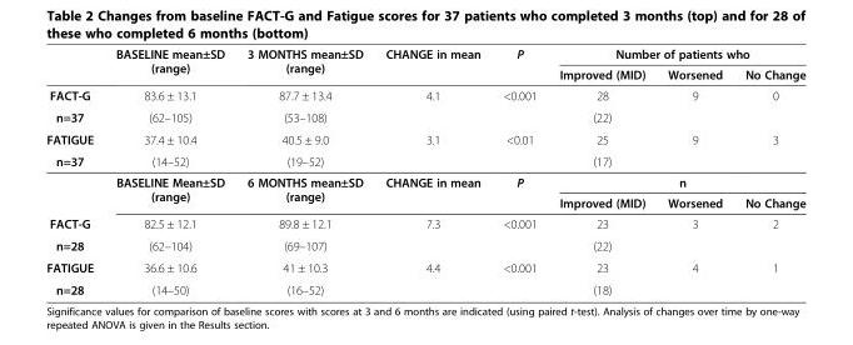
<table><thead><tr><td rowspan="2"></td><td rowspan="2">BASELINE mean±SD (range)</td><td rowspan="2">3 MONTHS mean±SD (range)</td><td rowspan="2">CHANGE in mean</td><td rowspan="2">P</td><td colspan="3">Number of patients who</td></tr><tr><td>Improved (MID)</td><td>Worsened</td><td>No Change</td></tr></thead><tbody><tr><td>FACT-G</td><td>83.6 ± 13.1</td><td>87.7 ± 13.4</td><td>4.1</td><td>&lt;0.001</td><td>28</td><td>9</td><td>0</td></tr><tr><td>n=37</td><td>(62–105)</td><td>(53–108)</td><td></td><td></td><td>(22)</td><td></td><td></td></tr><tr><td>FATIGUE</td><td>37.4 ± 10.4</td><td>40.5 ± 9.0</td><td>3.1</td><td>&lt;0.01</td><td>25</td><td>9</td><td>3</td></tr><tr><td rowspan="3">n=37</td><td>(14–52)</td><td>(19–52)</td><td></td><td></td><td>(17)</td><td></td><td></td></tr><tr><td rowspan="2">BASELINE Mean±SD (range)</td><td rowspan="2">6 MONTHS mean±SD (range)</td><td rowspan="2">CHANGE in mean</td><td rowspan="2">P</td><td colspan="3">n</td></tr><tr><td>Improved (MID)</td><td>Worsened</td><td>No Change</td></tr><tr><td>FACT-G</td><td>82.5 ± 12.1</td><td>89.8 ± 12.1</td><td>7.3</td><td>&lt;0.001</td><td>23</td><td>3</td><td>2</td></tr><tr><td>n=28</td><td>(62–104)</td><td>(69–107)</td><td></td><td></td><td>(22)</td><td></td><td></td></tr><tr><td>FATIGUE</td><td>36.6 ± 10.6</td><td>41 ± 10.3</td><td>4.4</td><td>&lt;0.001</td><td>23</td><td>4</td><td>1</td></tr><tr><td>n=28</td><td>(14–50)</td><td>(16–52)</td><td></td><td></td><td>(18)</td><td></td><td></td></tr></tbody></table>